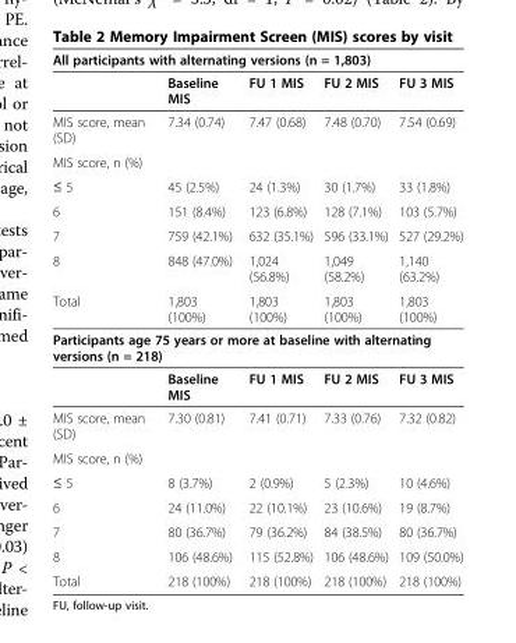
<table><thead><tr><td colspan="5">All participants with alternating versions (n = 1,803)</td></tr><tr><td></td><td>Baseline MIS</td><td>FU 1 MIS</td><td>FU 2 MIS</td><td>FU 3 MIS</td></tr></thead><tbody><tr><td>MIS score, mean (SD)</td><td>7.34 (0.74)</td><td>7.47 (0.68)</td><td>7.48 (0.70)</td><td>7.54 (0.69)</td></tr><tr><td colspan="5">MIS score, n (%)</td></tr><tr><td>≤ 5</td><td>45 (2.5%)</td><td>24 (1.3%)</td><td>30 (1.7%)</td><td>33 (1.8%)</td></tr><tr><td>6</td><td>151 (8.4%)</td><td>123 (6.8%)</td><td>128 (7.1%)</td><td>103 (5.7%)</td></tr><tr><td>7</td><td>759 (42.1%)</td><td>632 (35.1%)</td><td>596 (33.1%)</td><td>527 (29.2%)</td></tr><tr><td>8</td><td>848 (47.0%)</td><td>1,024 (56.8%)</td><td>1,049 (58.2%)</td><td>1,140 (63.2%)</td></tr><tr><td>Total</td><td>1,803 (100%)</td><td>1,803 (100%)</td><td>1,803 (100%)</td><td>1,803 (100%)</td></tr><tr><td colspan="5">Participants age 75 years or more at baseline with alternating versions (n = 218)</td></tr><tr><td></td><td>Baseline MIS</td><td>FU 1 MIS</td><td>FU 2 MIS</td><td>FU 3 MIS</td></tr><tr><td>MIS score, mean (SD)</td><td>7.30 (0.81)</td><td>7.41 (0.71)</td><td>7.33 (0.76)</td><td>7.32 (0.82)</td></tr><tr><td colspan="5">MIS score, n (%)</td></tr><tr><td>≤ 5</td><td>8 (3.7%)</td><td>2 (0.9%)</td><td>5 (2.3%)</td><td>10 (4.6%)</td></tr><tr><td>6</td><td>24 (11.0%)</td><td>22 (10.1%)</td><td>23 (10.6%)</td><td>19 (8.7%)</td></tr><tr><td>7</td><td>80 (36.7%)</td><td>79 (36.2%)</td><td>84 (38.5%)</td><td>80 (36.7%)</td></tr><tr><td>8</td><td>106 (48.6%)</td><td>115 (52.8%)</td><td>106 (48.6%)</td><td>109 (50.0%)</td></tr><tr><td>Total</td><td>218 (100%)</td><td>218 (100%)</td><td>218 (100%)</td><td>218 (100%)</td></tr></tbody></table>